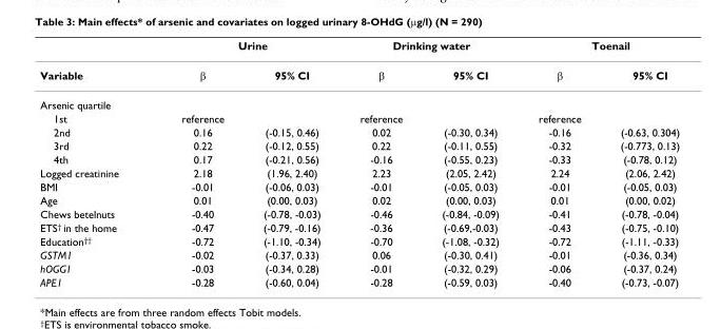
<table><thead><tr><td rowspan="2">Variable</td><td colspan="2">Urine</td><td colspan="2">Drinking water</td><td colspan="2">Toenail</td></tr><tr><td>β</td><td>95% CI</td><td>β</td><td>95% CI</td><td>β</td><td>95% CI</td></tr></thead><tbody><tr><td colspan="7">Arsenic quartile</td></tr><tr><td>1st</td><td>reference</td><td></td><td>reference</td><td></td><td>reference</td><td></td></tr><tr><td>2nd</td><td>0.16</td><td>(-0.15, 0.46)</td><td>0.02</td><td>(-0.30, 0.34)</td><td>-0.16</td><td>(-0.63, 0.304)</td></tr><tr><td>3rd</td><td>0.22</td><td>(-0.12, 0.55)</td><td>0.22</td><td>(-0.11, 0.55)</td><td>-0.32</td><td>(-0.773, 0.13)</td></tr><tr><td>4th</td><td>0.17</td><td>(-0.21, 0.56)</td><td>-0.16</td><td>(-0.55, 0.23)</td><td>-0.33</td><td>(-0.78, 0.12)</td></tr><tr><td>Logged creatinine</td><td>2.18</td><td>(1.96, 2.40)</td><td>2.23</td><td>(2.05, 2.42)</td><td>2.24</td><td>(2.06, 2.42)</td></tr><tr><td>BMI</td><td>-0.01</td><td>(-0.06, 0.03)</td><td>-0.01</td><td>(-0.05, 0.03)</td><td>-0.01</td><td>(-0.05, 0.03)</td></tr><tr><td>Age</td><td>0.01</td><td>(0.00, 0.03)</td><td>0.02</td><td>(0.00, 0.03)</td><td>0.01</td><td>(0.00, 0.02)</td></tr><tr><td>Chews betelnuts</td><td>-0.40</td><td>(-0.78, -0.03)</td><td>-0.46</td><td>(-0.84, -0.09)</td><td>-0.41</td><td>(-0.78, -0.04)</td></tr><tr><td>ETS<sup>†</sup> in the home</td><td>-0.47</td><td>(-0.79, -0.16)</td><td>-0.36</td><td>(-0.69,-0.03)</td><td>-0.43</td><td>(-0.75, -0.10)</td></tr><tr><td>Education<sup>††</sup></td><td>-0.72</td><td>(-1.10, -0.34)</td><td>-0.70</td><td>(-1.08, -0.32)</td><td>-0.72</td><td>(-1.11, -0.33)</td></tr><tr><td>GSTM1</td><td>-0.02</td><td>(-0.37, 0.33)</td><td>0.06</td><td>(-0.30, 0.41)</td><td>-0.01</td><td>(-0.36, 0.34)</td></tr><tr><td>hOGG1</td><td>-0.03</td><td>(-0.34, 0.28)</td><td>-0.01</td><td>(-0.32, 0.29)</td><td>-0.06</td><td>(-0.37, 0.24)</td></tr><tr><td>APE1</td><td>-0.28</td><td>(-0.60, 0.04)</td><td>-0.28</td><td>(-0.59, 0.03)</td><td>-0.40</td><td>(-0.73, -0.07)</td></tr></tbody></table>